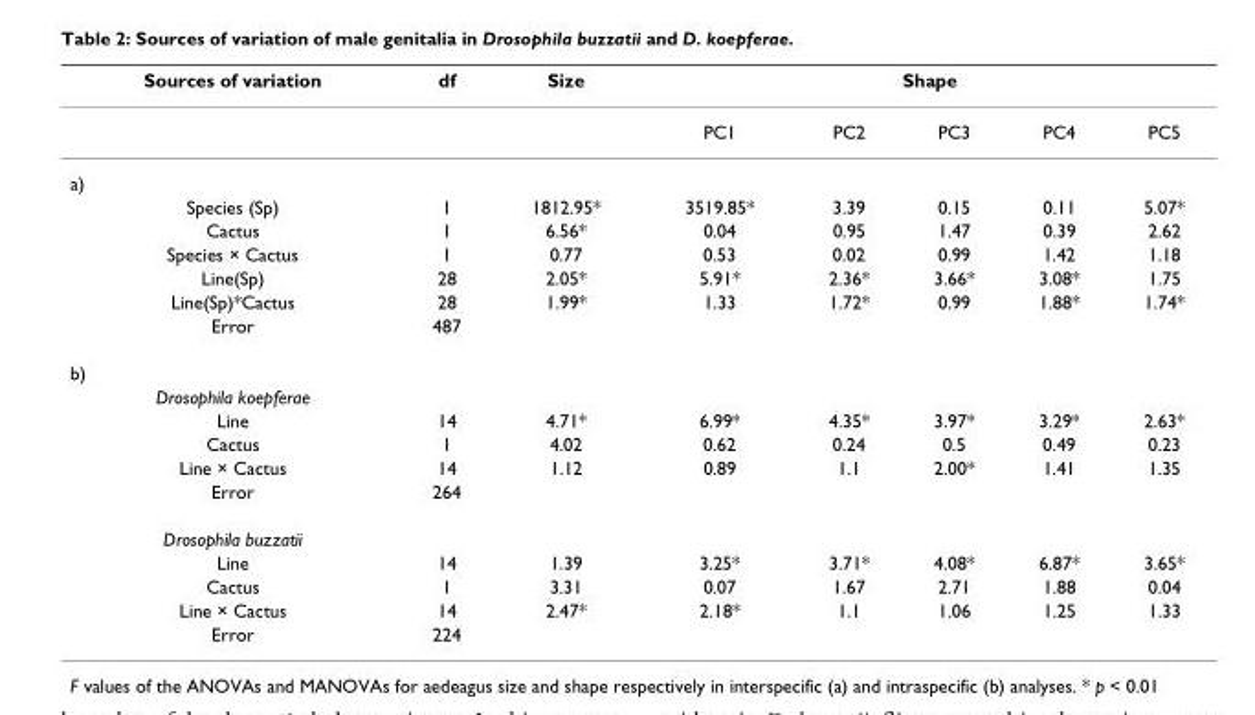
<table><thead><tr><td rowspan="2">Sources of variation</td><td rowspan="2">df</td><td rowspan="2">Size</td><td colspan="5">Shape</td></tr><tr><td>PC1</td><td>PC2</td><td>PC3</td><td>PC4</td><td>PC5</td></tr></thead><tbody><tr><td colspan="8">a)</td></tr><tr><td>Species (Sp)</td><td>1</td><td>1812.95*</td><td>3519.85*</td><td>3.39</td><td>0.15</td><td>0.11</td><td>5.07*</td></tr><tr><td>Cactus</td><td>1</td><td>6.56*</td><td>0.04</td><td>0.95</td><td>1.47</td><td>0.39</td><td>2.62</td></tr><tr><td>Species × Cactus</td><td>1</td><td>0.77</td><td>0.53</td><td>0.02</td><td>0.99</td><td>1.42</td><td>1.18</td></tr><tr><td>Line(Sp)</td><td>28</td><td>2.05*</td><td>5.91*</td><td>2.36*</td><td>3.66*</td><td>3.08*</td><td>1.75</td></tr><tr><td>Line(Sp)*Cactus</td><td>28</td><td>1.99*</td><td>1.33</td><td>1.72*</td><td>0.99</td><td>1.88*</td><td>1.74*</td></tr><tr><td>Error</td><td>487</td><td></td><td></td><td></td><td></td><td></td><td></td></tr><tr><td colspan="8">b)</td></tr><tr><td colspan="8">Drosophila koepferae</td></tr><tr><td>Line</td><td>14</td><td>4.71*</td><td>6.99*</td><td>4.35*</td><td>3.97*</td><td>3.29*</td><td>2.63*</td></tr><tr><td>Cactus</td><td>1</td><td>4.02</td><td>0.62</td><td>0.24</td><td>0.5</td><td>0.49</td><td>0.23</td></tr><tr><td>Line × Cactus</td><td>14</td><td>1.12</td><td>0.89</td><td>1.1</td><td>2.00*</td><td>1.41</td><td>1.35</td></tr><tr><td>Error</td><td>264</td><td></td><td></td><td></td><td></td><td></td><td></td></tr><tr><td colspan="8">Drosophila buzzatii</td></tr><tr><td>Line</td><td>14</td><td>1.39</td><td>3.25*</td><td>3.71*</td><td>4.08*</td><td>6.87*</td><td>3.65*</td></tr><tr><td>Cactus</td><td>1</td><td>3.31</td><td>0.07</td><td>1.67</td><td>2.71</td><td>1.88</td><td>0.04</td></tr><tr><td>Line × Cactus</td><td>14</td><td>2.47*</td><td>2.18*</td><td>1.1</td><td>1.06</td><td>1.25</td><td>1.33</td></tr><tr><td>Error</td><td>224</td><td></td><td></td><td></td><td></td><td></td><td></td></tr></tbody></table>